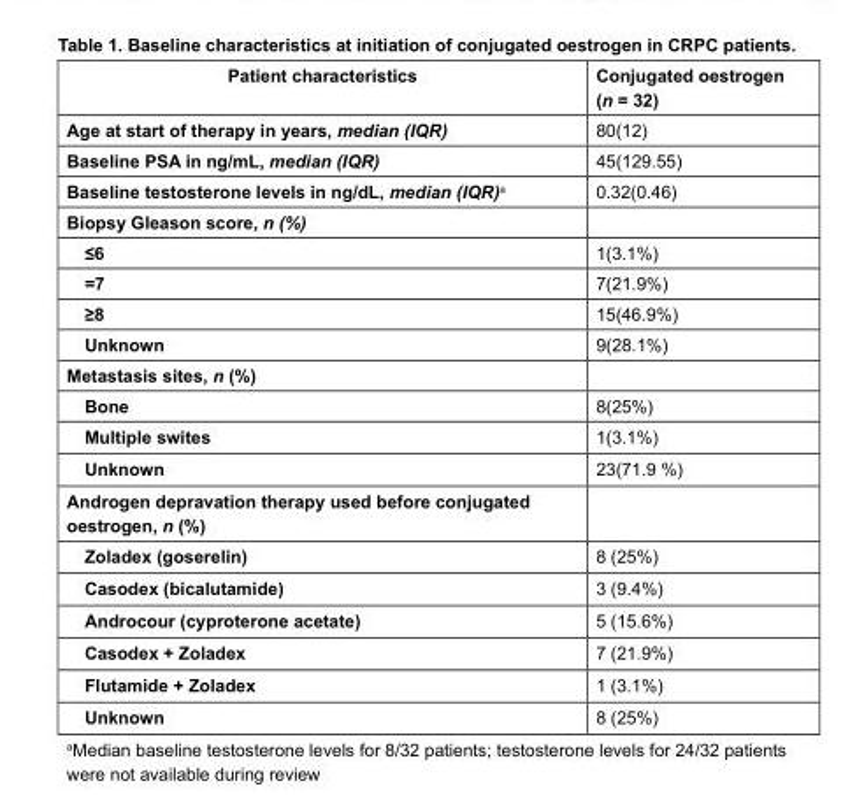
<table><thead><tr><td>Patient characteristics</td><td>Conjugated oestrogen (n = 32)</td></tr></thead><tbody><tr><td>Age at start of therapy in years, median (IQR)</td><td>80(12)</td></tr><tr><td>Baseline PSA in ng/mL, median (IQR)</td><td>45(129.55)</td></tr><tr><td>Baseline testosterone levels in ng/dL, median (IQR)<sup>a</sup></td><td>0.32(0.46)</td></tr><tr><td colspan="2">Biopsy Gleason score, n (%)</td></tr><tr><td>≤6</td><td>1(3.1%)</td></tr><tr><td>=7</td><td>7(21.9%)</td></tr><tr><td>≥8</td><td>15(46.9%)</td></tr><tr><td>Unknown</td><td>9(28.1%)</td></tr><tr><td colspan="2">Metastasis sites, n (%)</td></tr><tr><td>Bone</td><td>8(25%)</td></tr><tr><td>Multiple swites</td><td>1(3.1%)</td></tr><tr><td>Unknown</td><td>23(71.9 %)</td></tr><tr><td colspan="2">Androgen depravation therapy used before conjugated oestrogen, n (%)</td></tr><tr><td>Zoladex (goserelin)</td><td>8 (25%)</td></tr><tr><td>Casodex (bicalutamide)</td><td>3 (9.4%)</td></tr><tr><td>Androcour (cyproterone acetate)</td><td>5 (15.6%)</td></tr><tr><td>Casodex + Zoladex</td><td>7 (21.9%)</td></tr><tr><td>Flutamide + Zoladex</td><td>1 (3.1%)</td></tr><tr><td>Unknown</td><td>8 (25%)</td></tr></tbody></table>